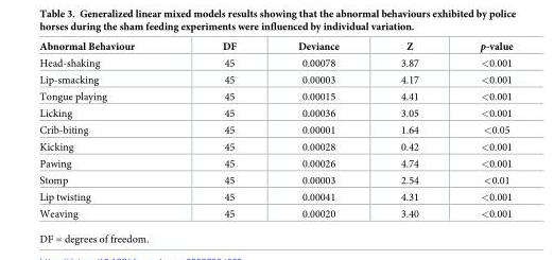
<table><thead><tr><td>Abnormal Behaviour</td><td>DF</td><td>Deviance</td><td>Z</td><td>p-value</td></tr></thead><tbody><tr><td>Head-shaking</td><td>45</td><td>0.00078</td><td>3.87</td><td>&lt;0.001</td></tr><tr><td>Lip-smacking</td><td>45</td><td>0.00003</td><td>4.17</td><td>&lt;0.001</td></tr><tr><td>Tongue playing</td><td>45</td><td>0.00015</td><td>4.41</td><td>&lt;0.001</td></tr><tr><td>Licking</td><td>45</td><td>0.00036</td><td>3.05</td><td>&lt;0.001</td></tr><tr><td>Crib-biting</td><td>45</td><td>0.00001</td><td>1.64</td><td>&lt;0.05</td></tr><tr><td>Kicking</td><td>45</td><td>0.00028</td><td>0.42</td><td>&lt;0.001</td></tr><tr><td>Pawing</td><td>45</td><td>0.00026</td><td>4.74</td><td>&lt;0.001</td></tr><tr><td>Stomp</td><td>45</td><td>0.00003</td><td>2.54</td><td>&lt;0.01</td></tr><tr><td>Lip twisting</td><td>45</td><td>0.00041</td><td>4.31</td><td>&lt;0.001</td></tr><tr><td>Weaving</td><td>45</td><td>0.00020</td><td>3.40</td><td>&lt;0.001</td></tr></tbody></table>